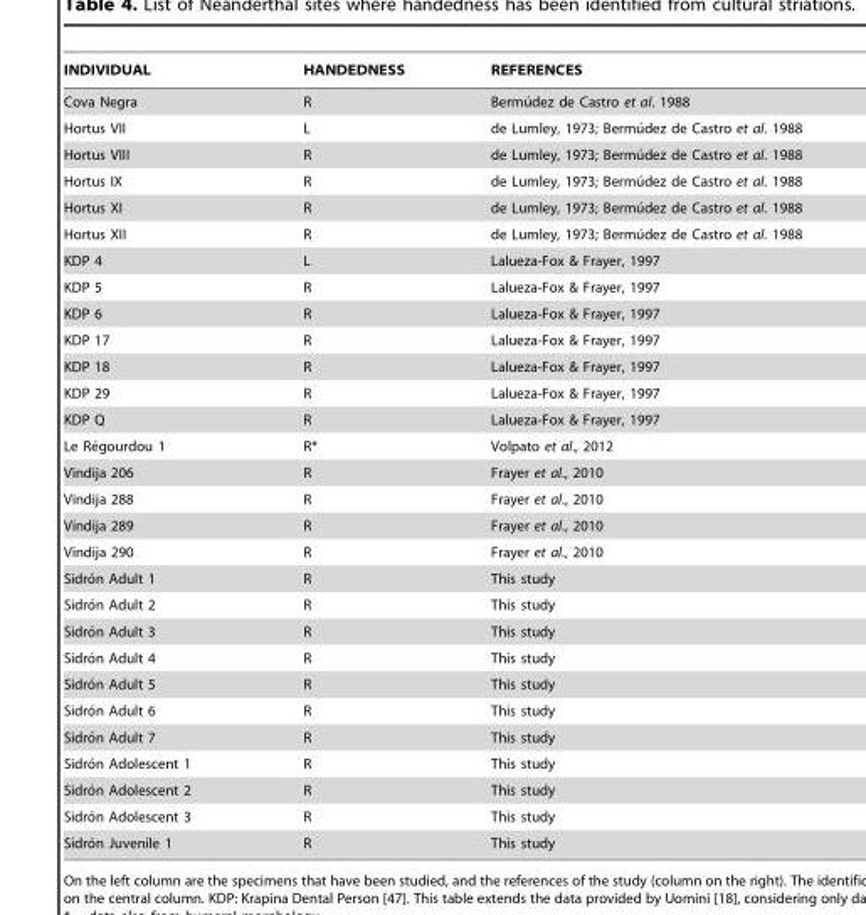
<table><thead><tr><td>INDIVIDUAL</td><td>HANDEDNESS</td><td>REFERENCES</td></tr></thead><tbody><tr><td>Cova Negra</td><td>R</td><td>Bermu´dez de Castro et al. 1988</td></tr><tr><td>Hortus VII</td><td>L</td><td>de Lumley, 1973; Bermu´dez de Castro et al. 1988</td></tr><tr><td>Hortus VIII</td><td>R</td><td>de Lumley, 1973; Bermu´dez de Castro et al. 1988</td></tr><tr><td>Hortus IX</td><td>R</td><td>de Lumley, 1973; Bermu´dez de Castro et al. 1988</td></tr><tr><td>Hortus XI</td><td>R</td><td>de Lumley, 1973; Bermu´dez de Castro et al. 1988</td></tr><tr><td>Hortus XII</td><td>R</td><td>de Lumley, 1973; Bermu´dez de Castro et al. 1988</td></tr><tr><td>KDP 4</td><td>L</td><td>Lalueza-Fox &amp; Frayer, 1997</td></tr><tr><td>KDP 5</td><td>R</td><td>Lalueza-Fox &amp; Frayer, 1997</td></tr><tr><td>KDP 6</td><td>R</td><td>Lalueza-Fox &amp; Frayer, 1997</td></tr><tr><td>KDP 17</td><td>R</td><td>Lalueza-Fox &amp; Frayer, 1997</td></tr><tr><td>KDP 18</td><td>R</td><td>Lalueza-Fox &amp; Frayer, 1997</td></tr><tr><td>KDP 29</td><td>R</td><td>Lalueza-Fox &amp; Frayer, 1997</td></tr><tr><td>KDP Q</td><td>R</td><td>Lalueza-Fox &amp; Frayer, 1997</td></tr><tr><td>Le Re´gourdou 1</td><td>R*</td><td>Volpato et al., 2012</td></tr><tr><td>Vindija 206</td><td>R</td><td>Frayer et al., 2010</td></tr><tr><td>Vindija 288</td><td>R</td><td>Frayer et al., 2010</td></tr><tr><td>Vindija 289</td><td>R</td><td>Frayer et al., 2010</td></tr><tr><td>Vindija 290</td><td>R</td><td>Frayer et al., 2010</td></tr><tr><td>Sidro´n Adult 1</td><td>R</td><td>This study</td></tr><tr><td>Sidro´n Adult 2</td><td>R</td><td>This study</td></tr><tr><td>Sidro´n Adult 3</td><td>R</td><td>This study</td></tr><tr><td>Sidro´n Adult 4</td><td>R</td><td>This study</td></tr><tr><td>Sidro´n Adult 5</td><td>R</td><td>This study</td></tr><tr><td>Sidro´n Adult 6</td><td>R</td><td>This study</td></tr><tr><td>Sidro´n Adult 7</td><td>R</td><td>This study</td></tr><tr><td>Sidro´n Adolescent 1</td><td>R</td><td>This study</td></tr><tr><td>Sidro´n Adolescent 2</td><td>R</td><td>This study</td></tr><tr><td>Sidro´n Adolescent 3</td><td>R</td><td>This study</td></tr><tr><td>Sidro´n Juvenile 1</td><td>R</td><td>This study</td></tr></tbody></table>